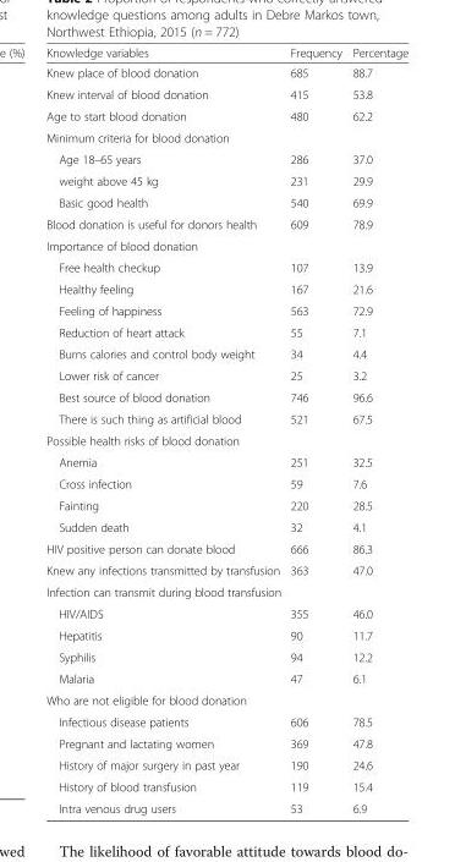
<table><thead><tr><td>Knowledge variables</td><td>Frequency</td><td>Percentage</td></tr></thead><tbody><tr><td>Knew place of blood donation</td><td>685</td><td>88.7</td></tr><tr><td>Knew interval of blood donation</td><td>415</td><td>53.8</td></tr><tr><td>Age to start blood donation</td><td>480</td><td>62.2</td></tr><tr><td colspan="3">Minimum criteria for blood donation</td></tr><tr><td>Age 18–65 years</td><td>286</td><td>37.0</td></tr><tr><td>weight above 45 kg</td><td>231</td><td>29.9</td></tr><tr><td>Basic good health</td><td>540</td><td>69.9</td></tr><tr><td>Blood donation is useful for donors health</td><td>609</td><td>78.9</td></tr><tr><td colspan="3">Importance of blood donation</td></tr><tr><td>Free health checkup</td><td>107</td><td>13.9</td></tr><tr><td>Healthy feeling</td><td>167</td><td>21.6</td></tr><tr><td>Feeling of happiness</td><td>563</td><td>72.9</td></tr><tr><td>Reduction of heart attack</td><td>55</td><td>7.1</td></tr><tr><td>Burns calories and control body weight</td><td>34</td><td>4.4</td></tr><tr><td>Lower risk of cancer</td><td>25</td><td>3.2</td></tr><tr><td>Best source of blood donation</td><td>746</td><td>96.6</td></tr><tr><td>There is such thing as artificial blood</td><td>521</td><td>67.5</td></tr><tr><td colspan="3">Possible health risks of blood donation</td></tr><tr><td>Anemia</td><td>251</td><td>32.5</td></tr><tr><td>Cross infection</td><td>59</td><td>7.6</td></tr><tr><td>Fainting</td><td>220</td><td>28.5</td></tr><tr><td>Sudden death</td><td>32</td><td>4.1</td></tr><tr><td>HIV positive person can donate blood</td><td>666</td><td>86.3</td></tr><tr><td>Knew any infections transmitted by transfusion</td><td>363</td><td>47.0</td></tr><tr><td colspan="3">Infection can transmit during blood transfusion</td></tr><tr><td>HIV/AIDS</td><td>355</td><td>46.0</td></tr><tr><td>Hepatitis</td><td>90</td><td>11.7</td></tr><tr><td>Syphilis</td><td>94</td><td>12.2</td></tr><tr><td>Malaria</td><td>47</td><td>6.1</td></tr><tr><td colspan="3">Who are not eligible for blood donation</td></tr><tr><td>Infectious disease patients</td><td>606</td><td>78.5</td></tr><tr><td>Pregnant and lactating women</td><td>369</td><td>47.8</td></tr><tr><td>History of major surgery in past year</td><td>190</td><td>24.6</td></tr><tr><td>History of blood transfusion</td><td>119</td><td>15.4</td></tr><tr><td>Intra venous drug users</td><td>53</td><td>6.9</td></tr></tbody></table>